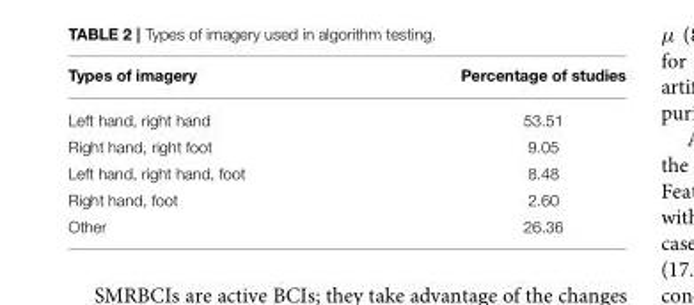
<table><thead><tr><td>Types of imagery</td><td>Percentage of studies</td></tr></thead><tbody><tr><td>Left hand, right hand</td><td>53.51</td></tr><tr><td>Right hand, right foot</td><td>9.05</td></tr><tr><td>Left hand, right hand, foot</td><td>8.48</td></tr><tr><td>Right hand, foot</td><td>2.60</td></tr><tr><td>Other</td><td>26.36</td></tr></tbody></table>